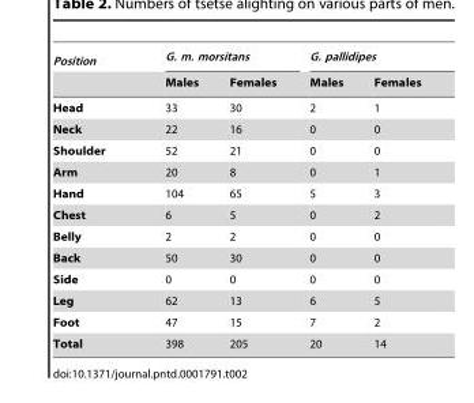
<table><thead><tr><td rowspan="2">Position</td><td colspan="2">G. m. morsitans</td><td colspan="2">G. pallidipes</td></tr><tr><td>Males</td><td>Females</td><td>Males</td><td>Females</td></tr></thead><tbody><tr><td>Head</td><td>33</td><td>30</td><td>2</td><td>1</td></tr><tr><td>Neck</td><td>22</td><td>16</td><td>0</td><td>0</td></tr><tr><td>Shoulder</td><td>52</td><td>21</td><td>0</td><td>0</td></tr><tr><td>Arm</td><td>20</td><td>8</td><td>0</td><td>1</td></tr><tr><td>Hand</td><td>104</td><td>65</td><td>5</td><td>3</td></tr><tr><td>Chest</td><td>6</td><td>5</td><td>0</td><td>2</td></tr><tr><td>Belly</td><td>2</td><td>2</td><td>0</td><td>0</td></tr><tr><td>Back</td><td>50</td><td>30</td><td>0</td><td>0</td></tr><tr><td>Side</td><td>0</td><td>0</td><td>0</td><td>0</td></tr><tr><td>Leg</td><td>62</td><td>13</td><td>6</td><td>5</td></tr><tr><td>Foot</td><td>47</td><td>15</td><td>7</td><td>2</td></tr><tr><td>Total</td><td>398</td><td>205</td><td>20</td><td>14</td></tr></tbody></table>